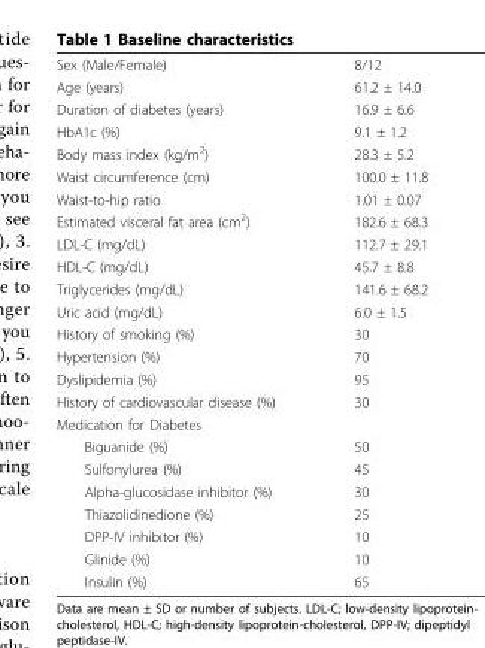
<table><tbody><tr><td>Sex (Male/Female)</td><td>8/12</td></tr><tr><td>Age (years)</td><td>61.2 ± 14.0</td></tr><tr><td>Duration of diabetes (years)</td><td>16.9 ± 6.6</td></tr><tr><td>HbA1c (%)</td><td>9.1 ± 1.2</td></tr><tr><td>Body mass index (kg/m<sup>2</sup>)</td><td>28.3 ± 5.2</td></tr><tr><td>Waist circumference (cm)</td><td>100.0 ± 11.8</td></tr><tr><td>Waist-to-hip ratio</td><td>1.01 ± 0.07</td></tr><tr><td>Estimated visceral fat area (cm<sup>2</sup>)</td><td>182.6 ± 68.3</td></tr><tr><td>LDL-C (mg/dL)</td><td>112.7 ± 29.1</td></tr><tr><td>HDL-C (mg/dL)</td><td>45.7 ± 8.8</td></tr><tr><td>Triglycerides (mg/dL)</td><td>141.6 ± 68.2</td></tr><tr><td>Uric acid (mg/dL)</td><td>6.0 ± 1.5</td></tr><tr><td>History of smoking (%)</td><td>30</td></tr><tr><td>Hypertension (%)</td><td>70</td></tr><tr><td>Dyslipidemia (%)</td><td>95</td></tr><tr><td>History of cardiovascular disease (%)</td><td>30</td></tr><tr><td colspan="2">Medication for Diabetes</td></tr><tr><td>Biguanide (%)</td><td>50</td></tr><tr><td>Sulfonylurea (%)</td><td>45</td></tr><tr><td>Alpha-glucosidase inhibitor (%)</td><td>30</td></tr><tr><td>Thiazolidinedione (%)</td><td>25</td></tr><tr><td>DPP-IV inhibitor (%)</td><td>10</td></tr><tr><td>Glinide (%)</td><td>10</td></tr><tr><td>Insulin (%)</td><td>65</td></tr></tbody></table>